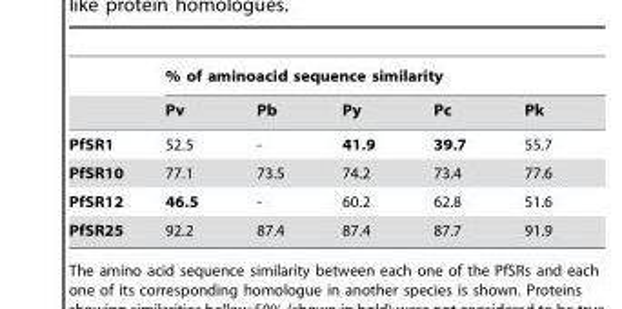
<table><thead><tr><td rowspan="2"></td><td colspan="5">% of aminoacid sequence similarity</td></tr><tr><td>Pv</td><td>Pb</td><td>Py</td><td>Pc</td><td>Pk</td></tr></thead><tbody><tr><td>PfSR1</td><td>52.5</td><td>-</td><td>41.9</td><td>39.7</td><td>55.7</td></tr><tr><td>PfSR10</td><td>77.1</td><td>73.5</td><td>74.2</td><td>73.4</td><td>77.6</td></tr><tr><td>PfSR12</td><td>46.5</td><td>-</td><td>60.2</td><td>62.8</td><td>51.6</td></tr><tr><td>PfSR25</td><td>92.2</td><td>87.4</td><td>87.4</td><td>87.7</td><td>91.9</td></tr></tbody></table>